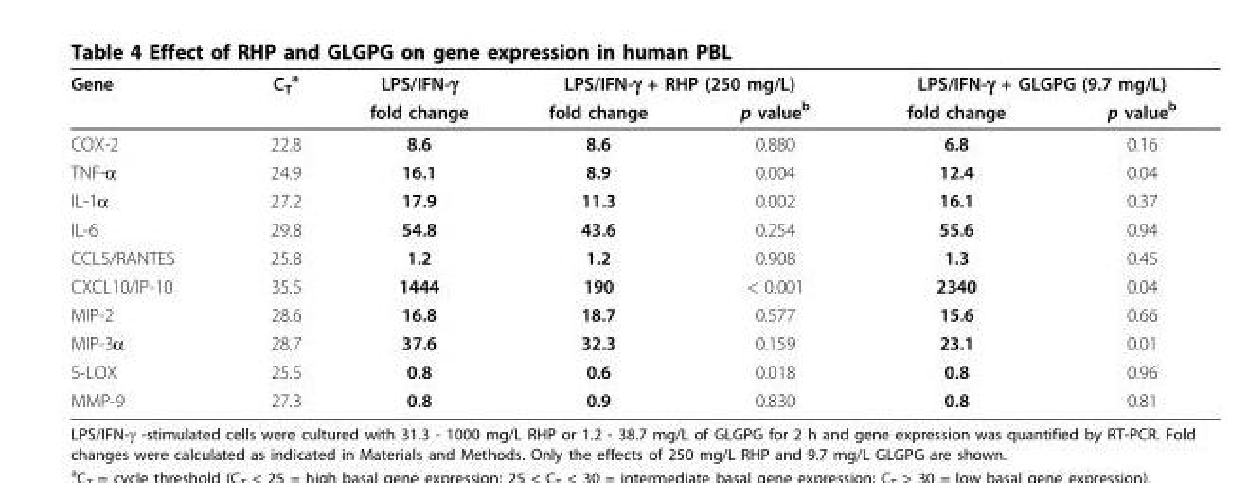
<table><thead><tr><td rowspan="2">Gene</td><td rowspan="2">C<sub>T</sub> <sup>a</sup></td><td rowspan="2">LPS/IFN-γ fold change</td><td colspan="2">LPS/IFN-γ + RHP (250 mg/L)</td><td colspan="2">LPS/IFN-γ + GLGPG (9.7 mg/L)</td></tr><tr><td>fold change</td><td>p value<sup>b</sup></td><td>fold change</td><td>p value<sup>b</sup></td></tr></thead><tbody><tr><td>COX-2</td><td>22.8</td><td>8.6</td><td>8.6</td><td>0.880</td><td>6.8</td><td>0.16</td></tr><tr><td>TNF-α</td><td>24.9</td><td>16.1</td><td>8.9</td><td>0.004</td><td>12.4</td><td>0.04</td></tr><tr><td>IL-1α</td><td>27.2</td><td>17.9</td><td>11.3</td><td>0.002</td><td>16.1</td><td>0.37</td></tr><tr><td>IL-6</td><td>29.8</td><td>54.8</td><td>43.6</td><td>0.254</td><td>55.6</td><td>0.94</td></tr><tr><td>CCL5/RANTES</td><td>25.8</td><td>1.2</td><td>1.2</td><td>0.908</td><td>1.3</td><td>0.45</td></tr><tr><td>CXCL10/IP-10</td><td>35.5</td><td>1444</td><td>190</td><td>&lt; 0.001</td><td>2340</td><td>0.04</td></tr><tr><td>MIP-2</td><td>28.6</td><td>16.8</td><td>18.7</td><td>0.577</td><td>15.6</td><td>0.66</td></tr><tr><td>MIP-3α</td><td>28.7</td><td>37.6</td><td>32.3</td><td>0.159</td><td>23.1</td><td>0.01</td></tr><tr><td>5-LOX</td><td>25.5</td><td>0.8</td><td>0.6</td><td>0.018</td><td>0.8</td><td>0.96</td></tr><tr><td>MMP-9</td><td>27.3</td><td>0.8</td><td>0.9</td><td>0.830</td><td>0.8</td><td>0.81</td></tr></tbody></table>